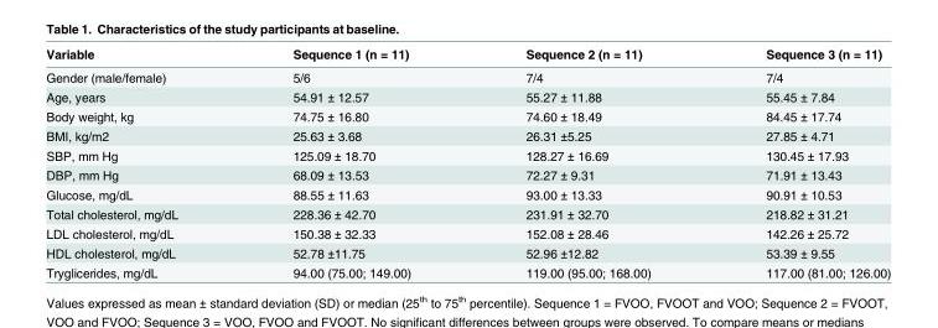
<table><thead><tr><td>Variable</td><td>Sequence 1 (n = 11)</td><td>Sequence 2 (n = 11)</td><td>Sequence 3 (n = 11)</td></tr></thead><tbody><tr><td>Gender (male/female)</td><td>5/6</td><td>7/4</td><td>7/4</td></tr><tr><td>Age, years</td><td>54.91 ± 12.57</td><td>55.27 ± 11.88</td><td>55.45 ± 7.84</td></tr><tr><td>Body weight, kg</td><td>74.75 ± 16.80</td><td>74.60 ± 18.49</td><td>84.45 ± 17.74</td></tr><tr><td>BMI, kg/m2</td><td>25.63 ± 3.68</td><td>26.31 ±5.25</td><td>27.85 ± 4.71</td></tr><tr><td>SBP, mm Hg</td><td>125.09 ± 18.70</td><td>128.27 ± 16.69</td><td>130.45 ± 17.93</td></tr><tr><td>DBP, mm Hg</td><td>68.09 ± 13.53</td><td>72.27 ± 9.31</td><td>71.91 ± 13.43</td></tr><tr><td>Glucose, mg/dL</td><td>88.55 ± 11.63</td><td>93.00 ± 13.33</td><td>90.91 ± 10.53</td></tr><tr><td>Total cholesterol, mg/dL</td><td>228.36 ± 42.70</td><td>231.91 ± 32.70</td><td>218.82 ± 31.21</td></tr><tr><td>LDL cholesterol, mg/dL</td><td>150.38 ± 32.33</td><td>152.08 ± 28.46</td><td>142.26 ± 25.72</td></tr><tr><td>HDL cholesterol, mg/dL</td><td>52.78 ±11.75</td><td>52.96 ±12.82</td><td>53.39 ± 9.55</td></tr><tr><td>Tryglicerides, mg/dL</td><td>94.00 (75.00; 149.00)</td><td>119.00 (95.00; 168.00)</td><td>117.00 (81.00; 126.00)</td></tr></tbody></table>